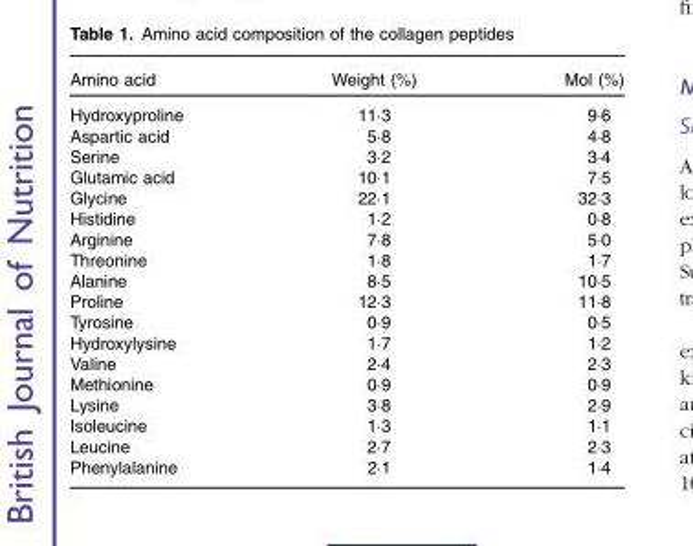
<table><thead><tr><td>Amino acid</td><td>Weight (%)</td><td>Mol (%)</td></tr></thead><tbody><tr><td>Hydroxyproline</td><td>11·3</td><td>9·6</td></tr><tr><td>Aspartic acid</td><td>5·8</td><td>4·8</td></tr><tr><td>Serine</td><td>3·2</td><td>3·4</td></tr><tr><td>Glutamic acid</td><td>10·1</td><td>7·5</td></tr><tr><td>Glycine</td><td>22·1</td><td>32·3</td></tr><tr><td>Histidine</td><td>1·2</td><td>0·8</td></tr><tr><td>Arginine</td><td>7·8</td><td>5·0</td></tr><tr><td>Threonine</td><td>1·8</td><td>1·7</td></tr><tr><td>Alanine</td><td>8·5</td><td>10·5</td></tr><tr><td>Proline</td><td>12·3</td><td>11·8</td></tr><tr><td>Tyrosine</td><td>0·9</td><td>0·5</td></tr><tr><td>Hydroxylysine</td><td>1·7</td><td>1·2</td></tr><tr><td>Valine</td><td>2·4</td><td>2·3</td></tr><tr><td>Methionine</td><td>0·9</td><td>0·9</td></tr><tr><td>Lysine</td><td>3·8</td><td>2·9</td></tr><tr><td>Isoleucine</td><td>1·3</td><td>1·1</td></tr><tr><td>Leucine</td><td>2·7</td><td>2·3</td></tr><tr><td>Phenylalanine</td><td>2·1</td><td>1·4</td></tr></tbody></table>